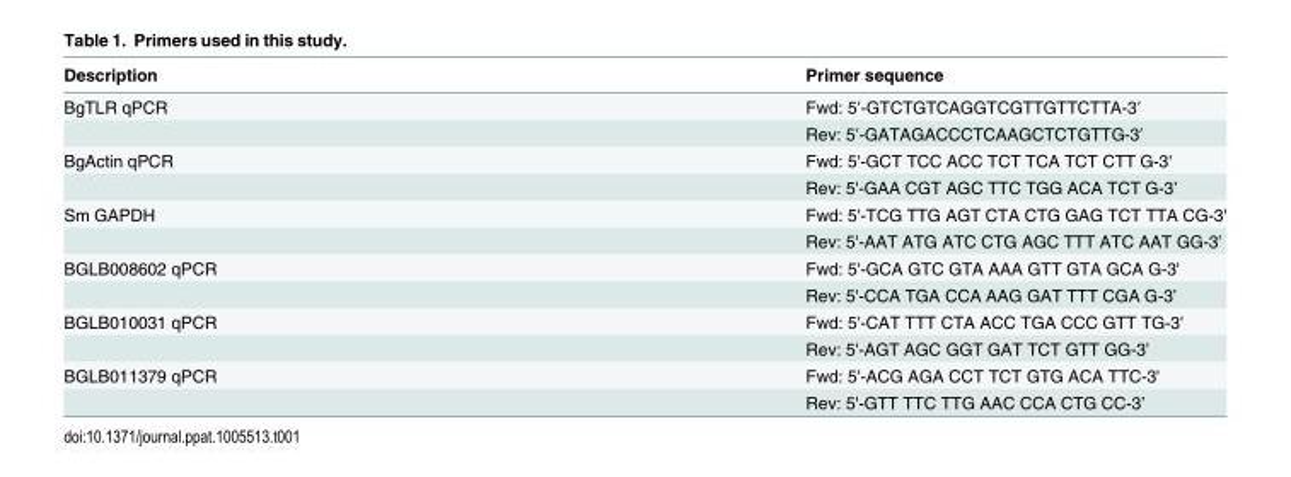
<table><thead><tr><td>Description</td><td>Primer sequence</td></tr></thead><tbody><tr><td rowspan="2">BgTLR qPCR</td><td>Fwd: 5ʹ-GTCTGTCAGGTCGTTGTTCTTA-3ʹ</td></tr><tr><td>Rev: 5ʹ-GATAGACCCTCAAGCTCTGTTG-3ʹ</td></tr><tr><td rowspan="2">BgActin qPCR</td><td>Fwd: 5&#x27;-GCT TCC ACC TCT TCA TCT CTT G-3&#x27;</td></tr><tr><td>Rev: 5&#x27;-GAA CGT AGC TTC TGG ACA TCT G-3’</td></tr><tr><td rowspan="2">Sm GAPDH</td><td>Fwd: 5&#x27;-TCG TTG AGT CTA CTG GAG TCT TTA CG-3&#x27;</td></tr><tr><td>Rev: 5&#x27;-AAT ATG ATC CTG AGC TTT ATC AAT GG-3’</td></tr><tr><td rowspan="2">BGLB008602 qPCR</td><td>Fwd: 5&#x27;-GCA GTC GTA AAA GTT GTA GCA G-3&#x27;</td></tr><tr><td>Rev: 5&#x27;-CCA TGA CCA AAG GAT TTT CGA G-3’</td></tr><tr><td rowspan="2">BGLB010031 qPCR</td><td>Fwd: 5&#x27;-CAT TTT CTA ACC TGA CCC GTT TG-3&#x27;</td></tr><tr><td>Rev: 5&#x27;-AGT AGC GGT GAT TCT GTT GG-3’</td></tr><tr><td rowspan="2">BGLB011379 qPCR</td><td>Fwd: 5&#x27;-ACG AGA CCT TCT GTG ACA TTC-3&#x27;</td></tr><tr><td>Rev: 5&#x27;-GTT TTC TTG AAC CCA CTG CC-3’</td></tr></tbody></table>